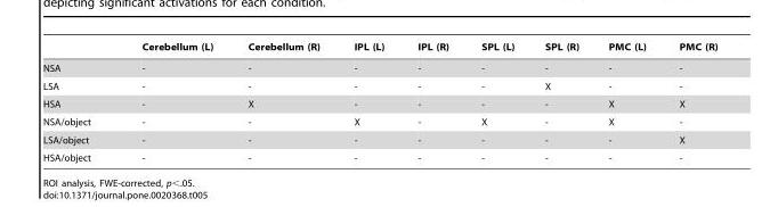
<table><thead><tr><td></td><td>Cerebellum (L)</td><td>Cerebellum (R)</td><td>IPL (L)</td><td>IPL (R)</td><td>SPL (L)</td><td>SPL (R)</td><td>PMC (L)</td><td>PMC (R)</td></tr></thead><tbody><tr><td>NSA</td><td>-</td><td>-</td><td>-</td><td>-</td><td>-</td><td>-</td><td>-</td><td>-</td></tr><tr><td>LSA</td><td>-</td><td>-</td><td>-</td><td>-</td><td>-</td><td>X</td><td>-</td><td>-</td></tr><tr><td>HSA</td><td>-</td><td>X</td><td>-</td><td>-</td><td>-</td><td>-</td><td>X</td><td>X</td></tr><tr><td>NSA/object</td><td>-</td><td>-</td><td>X</td><td>-</td><td>X</td><td>-</td><td>X</td><td>-</td></tr><tr><td>LSA/object</td><td>-</td><td>-</td><td>-</td><td>-</td><td>-</td><td>-</td><td>-</td><td>X</td></tr><tr><td>HSA/object</td><td>-</td><td>-</td><td>-</td><td>-</td><td>-</td><td>-</td><td>-</td><td>-</td></tr></tbody></table>